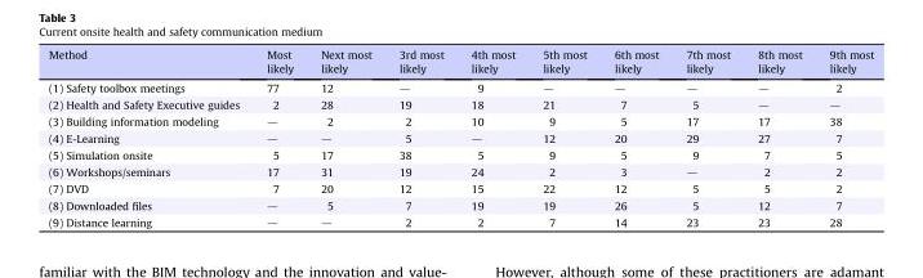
<table><thead><tr><td>Method</td><td>Most likely</td><td>Next most likely</td><td>3rd most likely</td><td>4th most likely</td><td>5th most likely</td><td>6th most likely</td><td>7th most likely</td><td>8th most likely</td><td>9th most likely</td></tr></thead><tbody><tr><td>(1) Safety toolbox meetings</td><td>77</td><td>12</td><td>—</td><td>9</td><td>—</td><td>—</td><td>—</td><td>—</td><td>2</td></tr><tr><td>(2) Health and Safety Executive guides</td><td>2</td><td>28</td><td>19</td><td>18</td><td>21</td><td>7</td><td>5</td><td>—</td><td>—</td></tr><tr><td>(3) Building information modeling</td><td>—</td><td>2</td><td>2</td><td>10</td><td>9</td><td>5</td><td>17</td><td>17</td><td>38</td></tr><tr><td>(4) E-Learning</td><td>—</td><td>—</td><td>5</td><td>—</td><td>12</td><td>20</td><td>29</td><td>27</td><td>7</td></tr><tr><td>(5) Simulation onsite</td><td>5</td><td>17</td><td>38</td><td>5</td><td>9</td><td>5</td><td>9</td><td>7</td><td>5</td></tr><tr><td>(6) Workshops/seminars</td><td>17</td><td>31</td><td>19</td><td>24</td><td>2</td><td>3</td><td>—</td><td>2</td><td>2</td></tr><tr><td>(7) DVD</td><td>7</td><td>20</td><td>12</td><td>15</td><td>22</td><td>12</td><td>5</td><td>5</td><td>2</td></tr><tr><td>(8) Downloaded files</td><td>—</td><td>5</td><td>7</td><td>19</td><td>19</td><td>26</td><td>5</td><td>12</td><td>7</td></tr><tr><td>(9) Distance learning</td><td>—</td><td>—</td><td>2</td><td>2</td><td>7</td><td>14</td><td>23</td><td>23</td><td>28</td></tr></tbody></table>